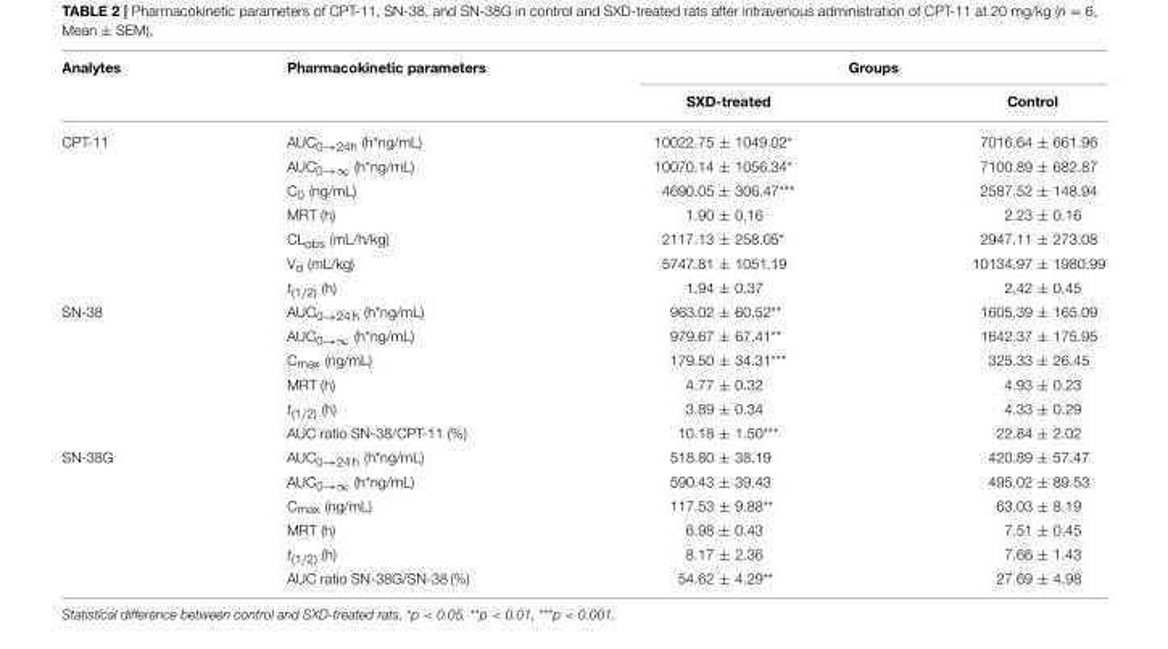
<table><thead><tr><td rowspan="2">Analytes</td><td rowspan="2">Pharmacokinetic parameters</td><td colspan="2">Groups</td></tr><tr><td>SXD-treated</td><td>Control</td></tr></thead><tbody><tr><td rowspan="7">CPT-11</td><td>AUC<sub>0→24h</sub> (h*ng/mL)</td><td>10022.75 ± 1049.02*</td><td>7016.64 ± 661.96</td></tr><tr><td>AUC<sub>0→∞</sub> (h*ng/mL)</td><td>10070.14 ± 1056.34*</td><td>7100.89 ± 682.87</td></tr><tr><td>C<sub>0</sub> (ng/mL)</td><td>4690.05 ± 306.47***</td><td>2587.52 ± 148.94</td></tr><tr><td>MRT (h)</td><td>1.90 ± 0.16</td><td>2.23 ± 0.16</td></tr><tr><td>CL<sub>obs</sub> (mL/h/kg)</td><td>2117.13 ± 258.05*</td><td>2947.11 ± 273.08</td></tr><tr><td>V<sub>d</sub> (mL/kg)</td><td>5747.81 ± 1051.19</td><td>10134.97 ± 1980.99</td></tr><tr><td>t<sub>(1/2)</sub> (h)</td><td>1.94 ± 0.37</td><td>2.42 ± 0.45</td></tr><tr><td rowspan="6">SN-38</td><td>AUC<sub>0→24 h</sub> (h*ng/mL)</td><td>963.02 ± 60.52**</td><td>1605.39 ± 165.09</td></tr><tr><td>AUC<sub>0→∞</sub> (h*ng/mL)</td><td>979.67 ± 67.41**</td><td>1642.37 ± 175.95</td></tr><tr><td>C<sub>max</sub> (ng/mL)</td><td>179.50 ± 34.31***</td><td>325.33 ± 26.45</td></tr><tr><td>MRT (h)</td><td>4.77 ± 0.32</td><td>4.93 ± 0.23</td></tr><tr><td>t<sub>(1/2)</sub> (h)</td><td>3.89 ± 0.34</td><td>4.33 ± 0.29</td></tr><tr><td>AUC ratio SN-38/CPT-11 (%)</td><td>10.18 ± 1.50***</td><td>22.84 ± 2.02</td></tr><tr><td rowspan="6">SN-38G</td><td>AUC<sub>0→24 h</sub> (h*ng/mL)</td><td>518.80 ± 38.19</td><td>420.89 ± 57.47</td></tr><tr><td>AUC<sub>0→∞</sub> (h*ng/mL)</td><td>590.43 ± 39.43</td><td>495.02 ± 89.53</td></tr><tr><td>C<sub>max</sub> (ng/mL)</td><td>117.53 ± 9.88**</td><td>63.03 ± 8.19</td></tr><tr><td>MRT (h)</td><td>6.98 ± 0.43</td><td>7.51 ± 0.45</td></tr><tr><td>t<sub>(1/2)</sub> (h)</td><td>8.17 ± 2.36</td><td>7.66 ± 1.43</td></tr><tr><td>AUC ratio SN-38G/SN-38 (%)</td><td>54.62 ± 4.29**</td><td>27.69 ± 4.98</td></tr></tbody></table>